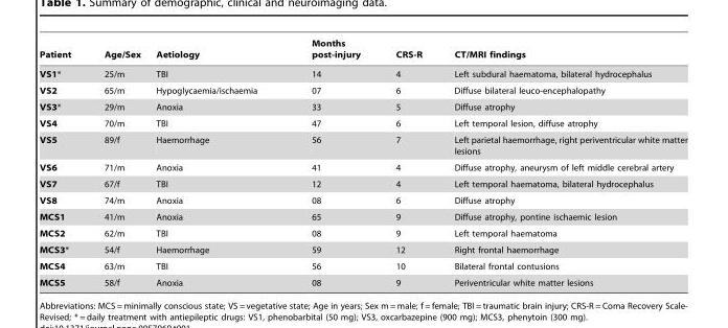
<table><thead><tr><td>Patient</td><td>Age/Sex</td><td>Aetiology</td><td>Months post-injury</td><td>CRS-R</td><td>CT/MRI findings</td></tr></thead><tbody><tr><td>VS1*</td><td>25/m</td><td>TBI</td><td>14</td><td>4</td><td>Left subdural haematoma, bilateral hydrocephalus</td></tr><tr><td>VS2</td><td>65/m</td><td>Hypoglycaemia/ischaemia</td><td>07</td><td>6</td><td>Diffuse bilateral leuco-encephalopathy</td></tr><tr><td>VS3*</td><td>29/m</td><td>Anoxia</td><td>33</td><td>5</td><td>Diffuse atrophy</td></tr><tr><td>VS4</td><td>70/m</td><td>TBI</td><td>47</td><td>6</td><td>Left temporal lesion, diffuse atrophy</td></tr><tr><td>VS5</td><td>89/f</td><td>Haemorrhage</td><td>56</td><td>7</td><td>Left parietal haemorrhage, right periventricular white matter lesions</td></tr><tr><td>VS6</td><td>71/m</td><td>Anoxia</td><td>41</td><td>4</td><td>Diffuse atrophy, aneurysm of left middle cerebral artery</td></tr><tr><td>VS7</td><td>67/f</td><td>TBI</td><td>12</td><td>4</td><td>Left temporal haematoma, bilateral hydrocephalus</td></tr><tr><td>VS8</td><td>74/m</td><td>Anoxia</td><td>08</td><td>6</td><td>Diffuse atrophy</td></tr><tr><td>MCS1</td><td>41/m</td><td>Anoxia</td><td>65</td><td>9</td><td>Diffuse atrophy, pontine ischaemic lesion</td></tr><tr><td>MCS2</td><td>62/m</td><td>TBI</td><td>08</td><td>9</td><td>Left temporal haematoma</td></tr><tr><td>MCS3*</td><td>54/f</td><td>Haemorrhage</td><td>59</td><td>12</td><td>Right frontal haemorrhage</td></tr><tr><td>MCS4</td><td>63/m</td><td>TBI</td><td>56</td><td>10</td><td>Bilateral frontal contusions</td></tr><tr><td>MCS5</td><td>58/f</td><td>Anoxia</td><td>08</td><td>9</td><td>Periventricular white matter lesions</td></tr></tbody></table>